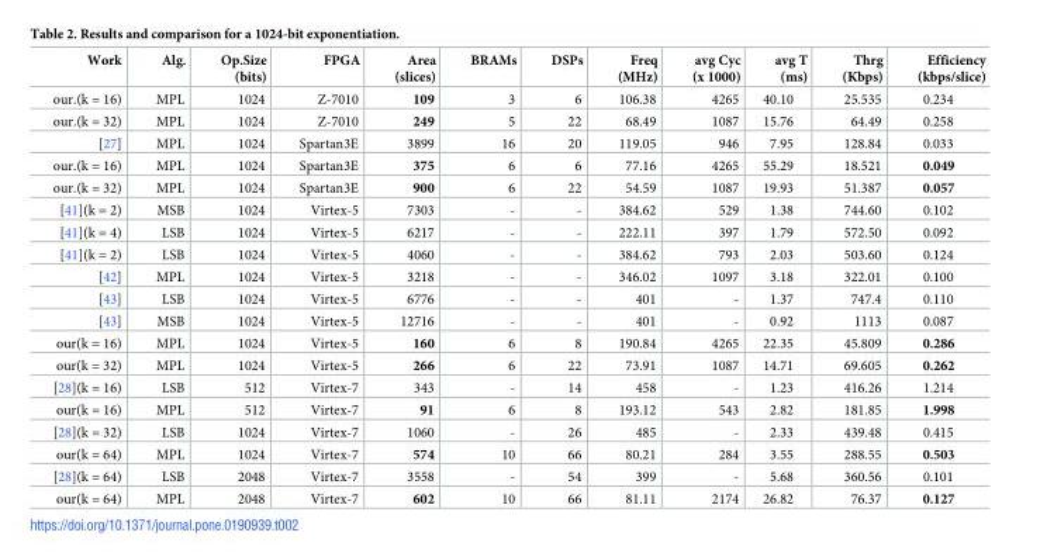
<table><thead><tr><td>Work</td><td>Alg.</td><td>Op.Size (bits)</td><td>FPGA</td><td>Area (slices)</td><td>BRAMs</td><td>DSPs</td><td>Freq (MHz)</td><td>avg Cyc (x 1000)</td><td>avg T (ms)</td><td>Thrg (Kbps)</td><td>Efficiency (kbps/slice)</td></tr></thead><tbody><tr><td>our.(k = 16)</td><td>MPL</td><td>1024</td><td>Z-7010</td><td>109</td><td>3</td><td>6</td><td>106.38</td><td>4265</td><td>40.10</td><td>25.535</td><td>0.234</td></tr><tr><td>our.(k = 32)</td><td>MPL</td><td>1024</td><td>Z-7010</td><td>249</td><td>5</td><td>22</td><td>68.49</td><td>1087</td><td>15.76</td><td>64.49</td><td>0.258</td></tr><tr><td>[27]</td><td>MPL</td><td>1024</td><td>Spartan3E</td><td>3899</td><td>16</td><td>20</td><td>119.05</td><td>946</td><td>7.95</td><td>128.84</td><td>0.033</td></tr><tr><td>our.(k = 16)</td><td>MPL</td><td>1024</td><td>Spartan3E</td><td>375</td><td>6</td><td>6</td><td>77.16</td><td>4265</td><td>55.29</td><td>18.521</td><td>0.049</td></tr><tr><td>our.(k = 32)</td><td>MPL</td><td>1024</td><td>Spartan3E</td><td>900</td><td>6</td><td>22</td><td>54.59</td><td>1087</td><td>19.93</td><td>51.387</td><td>0.057</td></tr><tr><td>[41](k = 2)</td><td>MSB</td><td>1024</td><td>Virtex-5</td><td>7303</td><td>-</td><td>-</td><td>384.62</td><td>529</td><td>1.38</td><td>744.60</td><td>0.102</td></tr><tr><td>[41](k = 4)</td><td>LSB</td><td>1024</td><td>Virtex-5</td><td>6217</td><td>-</td><td>-</td><td>222.11</td><td>397</td><td>1.79</td><td>572.50</td><td>0.092</td></tr><tr><td>[41](k = 2)</td><td>LSB</td><td>1024</td><td>Virtex-5</td><td>4060</td><td>-</td><td>-</td><td>384.62</td><td>793</td><td>2.03</td><td>503.60</td><td>0.124</td></tr><tr><td>[42]</td><td>MPL</td><td>1024</td><td>Virtex-5</td><td>3218</td><td>-</td><td>-</td><td>346.02</td><td>1097</td><td>3.18</td><td>322.01</td><td>0.100</td></tr><tr><td>[43]</td><td>LSB</td><td>1024</td><td>Virtex-5</td><td>6776</td><td>-</td><td>-</td><td>401</td><td>-</td><td>1.37</td><td>747.4</td><td>0.110</td></tr><tr><td>[43]</td><td>MSB</td><td>1024</td><td>Virtex-5</td><td>12716</td><td>-</td><td>-</td><td>401</td><td>-</td><td>0.92</td><td>1113</td><td>0.087</td></tr><tr><td>our(k = 16)</td><td>MPL</td><td>1024</td><td>Virtex-5</td><td>160</td><td>6</td><td>8</td><td>190.84</td><td>4265</td><td>22.35</td><td>45.809</td><td>0.286</td></tr><tr><td>our(k = 32)</td><td>MPL</td><td>1024</td><td>Virtex-5</td><td>266</td><td>6</td><td>22</td><td>73.91</td><td>1087</td><td>14.71</td><td>69.605</td><td>0.262</td></tr><tr><td>[28](k = 16)</td><td>LSB</td><td>512</td><td>Virtex-7</td><td>343</td><td>-</td><td>14</td><td>458</td><td>-</td><td>1.23</td><td>416.26</td><td>1.214</td></tr><tr><td>our(k = 16)</td><td>MPL</td><td>512</td><td>Virtex-7</td><td>91</td><td>6</td><td>8</td><td>193.12</td><td>543</td><td>2.82</td><td>181.85</td><td>1.998</td></tr><tr><td>[28](k = 32)</td><td>LSB</td><td>1024</td><td>Virtex-7</td><td>1060</td><td>-</td><td>26</td><td>485</td><td>-</td><td>2.33</td><td>439.48</td><td>0.415</td></tr><tr><td>our(k = 64)</td><td>MPL</td><td>1024</td><td>Virtex-7</td><td>574</td><td>10</td><td>66</td><td>80.21</td><td>284</td><td>3.55</td><td>288.55</td><td>0.503</td></tr><tr><td>[28](k = 64)</td><td>LSB</td><td>2048</td><td>Virtex-7</td><td>3558</td><td>-</td><td>54</td><td>399</td><td>-</td><td>5.68</td><td>360.56</td><td>0.101</td></tr><tr><td>our(k = 64)</td><td>MPL</td><td>2048</td><td>Virtex-7</td><td>602</td><td>10</td><td>66</td><td>81.11</td><td>2174</td><td>26.82</td><td>76.37</td><td>0.127</td></tr></tbody></table>